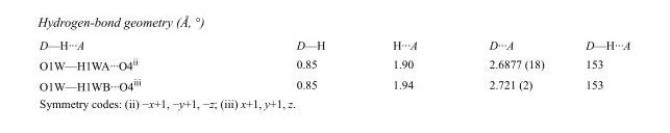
<table><tbody><tr><td>D—H···A</td><td>D—H</td><td>H···A</td><td>D···A</td><td>D—H···A</td></tr><tr><td>O1W—H1WA···O4<sup>ii</sup></td><td>0.85</td><td>1.90</td><td>2.6877 (18)</td><td>153</td></tr><tr><td>O1W—H1WB···O4<sup>iii</sup></td><td>0.85</td><td>1.94</td><td>2.721 (2)</td><td>153</td></tr></tbody></table>